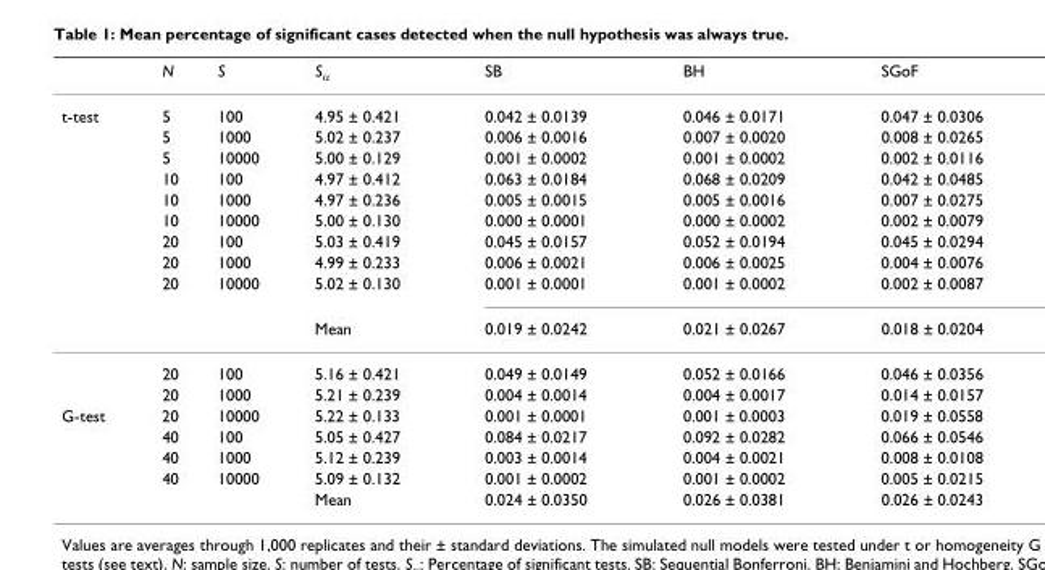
<table><thead><tr><td></td><td>N</td><td>S</td><td>S<sub>α</sub></td><td>SB</td><td>BH</td><td>SGoF</td></tr></thead><tbody><tr><td rowspan="12">t-test</td><td>5</td><td>100</td><td>4.95 ± 0.421</td><td>0.042 ± 0.0139</td><td>0.046 ± 0.0171</td><td>0.047 ± 0.0306</td></tr><tr><td>5</td><td>1000</td><td>5.02 ± 0.237</td><td>0.006 ± 0.0016</td><td>0.007 ± 0.0020</td><td>0.008 ± 0.0265</td></tr><tr><td>5</td><td>10000</td><td>5.00 ± 0.129</td><td>0.001 ± 0.0002</td><td>0.001 ± 0.0002</td><td>0.002 ± 0.0116</td></tr><tr><td>10</td><td>100</td><td>4.97 ± 0.412</td><td>0.063 ± 0.0184</td><td>0.068 ± 0.0209</td><td>0.042 ± 0.0485</td></tr><tr><td>10</td><td>1000</td><td>4.97 ± 0.236</td><td>0.005 ± 0.0015</td><td>0.005 ± 0.0016</td><td>0.007 ± 0.0275</td></tr><tr><td>10</td><td>10000</td><td>5.00 ± 0.130</td><td>0.000 ± 0.0001</td><td>0.000 ± 0.0002</td><td>0.002 ± 0.0079</td></tr><tr><td>20</td><td>100</td><td>5.03 ± 0.419</td><td>0.045 ± 0.0157</td><td>0.052 ± 0.0194</td><td>0.045 ± 0.0294</td></tr><tr><td>20</td><td>1000</td><td>4.99 ± 0.233</td><td>0.006 ± 0.0021</td><td>0.006 ± 0.0025</td><td>0.004 ± 0.0076</td></tr><tr><td>20</td><td>10000</td><td>5.02 ± 0.130</td><td>0.001 ± 0.0001</td><td>0.001 ± 0.0002</td><td>0.002 ± 0.0087</td></tr><tr><td></td><td></td><td>Mean</td><td>0.019 ± 0.0242</td><td>0.021 ± 0.0267</td><td>0.018 ± 0.0204</td></tr><tr><td>20</td><td>100</td><td>5.16 ± 0.421</td><td>0.049 ± 0.0149</td><td>0.052 ± 0.0166</td><td>0.046 ± 0.0356</td></tr><tr><td>20</td><td>1000</td><td>5.21 ± 0.239</td><td>0.004 ± 0.0014</td><td>0.004 ± 0.0017</td><td>0.014 ± 0.0157</td></tr><tr><td rowspan="5">G-test</td><td>20</td><td>10000</td><td>5.22 ± 0.133</td><td>0.001 ± 0.0001</td><td>0.001 ± 0.0003</td><td>0.019 ± 0.0558</td></tr><tr><td>40</td><td>100</td><td>5.05 ± 0.427</td><td>0.084 ± 0.0217</td><td>0.092 ± 0.0282</td><td>0.066 ± 0.0546</td></tr><tr><td>40</td><td>1000</td><td>5.12 ± 0.239</td><td>0.003 ± 0.0014</td><td>0.004 ± 0.0021</td><td>0.008 ± 0.0108</td></tr><tr><td>40</td><td>10000</td><td>5.09 ± 0.132</td><td>0.001 ± 0.0002</td><td>0.001 ± 0.0002</td><td>0.005 ± 0.0215</td></tr><tr><td></td><td></td><td>Mean</td><td>0.024 ± 0.0350</td><td>0.026 ± 0.0381</td><td>0.026 ± 0.0243</td></tr></tbody></table>